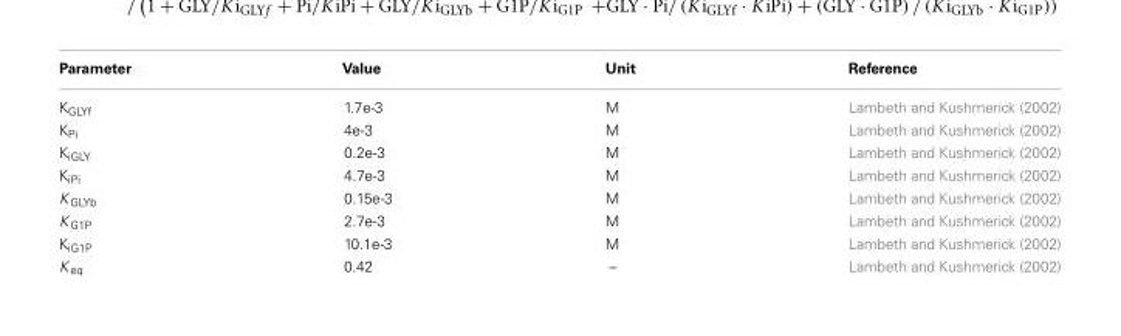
<table><thead><tr><td>Parameter</td><td>Value</td><td>Unit</td><td>Reference</td></tr></thead><tbody><tr><td>K<sub>GLYf</sub></td><td>1.7e-3</td><td>M</td><td>Lambeth and Kushmerick (2002)</td></tr><tr><td>K<sub>Pi</sub></td><td>4e-3</td><td>M</td><td>Lambeth and Kushmerick (2002)</td></tr><tr><td>K<sub>iGLY</sub></td><td>0.2e-3</td><td>M</td><td>Lambeth and Kushmerick (2002)</td></tr><tr><td>K<sub>iPi</sub></td><td>4.7e-3</td><td>M</td><td>Lambeth and Kushmerick (2002)</td></tr><tr><td>K <sub>GLYb</sub></td><td>0.15e-3</td><td>M</td><td>Lambeth and Kushmerick (2002)</td></tr><tr><td>K <sub>G1P</sub></td><td>2.7e-3</td><td>M</td><td>Lambeth and Kushmerick (2002)</td></tr><tr><td>K<sub>iG1P</sub></td><td>10.1e-3</td><td>M</td><td>Lambeth and Kushmerick (2002)</td></tr><tr><td>K <sub>eq</sub></td><td>0.42</td><td>–</td><td>Lambeth and Kushmerick (2002)</td></tr></tbody></table>